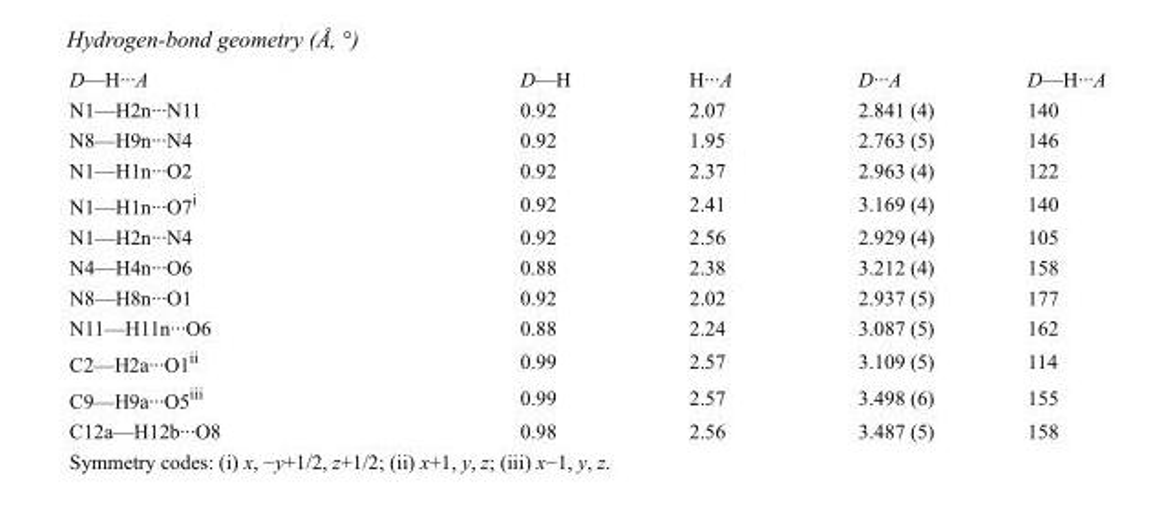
<table><tbody><tr><td>D—H···A</td><td>D—H</td><td>H···A</td><td>D···A</td><td>D—H···A</td></tr><tr><td>N1—H2n···N11</td><td>0.92</td><td>2.07</td><td>2.841 (4)</td><td>140</td></tr><tr><td>N8—H9n···N4</td><td>0.92</td><td>1.95</td><td>2.763 (5)</td><td>146</td></tr><tr><td>N1—H1n···O2</td><td>0.92</td><td>2.37</td><td>2.963 (4)</td><td>122</td></tr><tr><td>N1—H1n···O7<sup>i</sup></td><td>0.92</td><td>2.41</td><td>3.169 (4)</td><td>140</td></tr><tr><td>N1—H2n···N4</td><td>0.92</td><td>2.56</td><td>2.929 (4)</td><td>105</td></tr><tr><td>N4—H4n···O6</td><td>0.88</td><td>2.38</td><td>3.212 (4)</td><td>158</td></tr><tr><td>N8—H8n···O1</td><td>0.92</td><td>2.02</td><td>2.937 (5)</td><td>177</td></tr><tr><td>N11—H11n···O6</td><td>0.88</td><td>2.24</td><td>3.087 (5)</td><td>162</td></tr><tr><td>C2—H2a···O1<sup>ii</sup></td><td>0.99</td><td>2.57</td><td>3.109 (5)</td><td>114</td></tr><tr><td>C9—H9a···O5<sup>iii</sup></td><td>0.99</td><td>2.57</td><td>3.498 (6)</td><td>155</td></tr><tr><td>C12a—H12b···O8</td><td>0.98</td><td>2.56</td><td>3.487 (5)</td><td>158</td></tr></tbody></table>